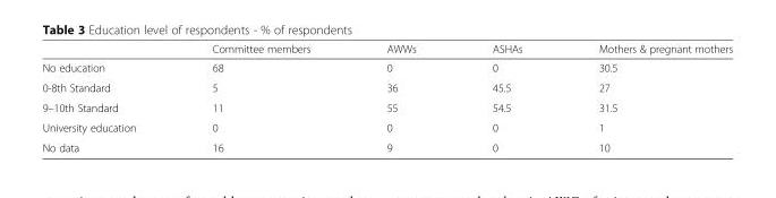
<table><thead><tr><td></td><td>Committee members</td><td>AWWs</td><td>ASHAs</td><td>Mothers &amp; pregnant mothers</td></tr></thead><tbody><tr><td>No education</td><td>68</td><td>0</td><td>0</td><td>30.5</td></tr><tr><td>0-8th Standard</td><td>5</td><td>36</td><td>45.5</td><td>27</td></tr><tr><td>9–10th Standard</td><td>11</td><td>55</td><td>54.5</td><td>31.5</td></tr><tr><td>University education</td><td>0</td><td>0</td><td>0</td><td>1</td></tr><tr><td>No data</td><td>16</td><td>9</td><td>0</td><td>10</td></tr></tbody></table>